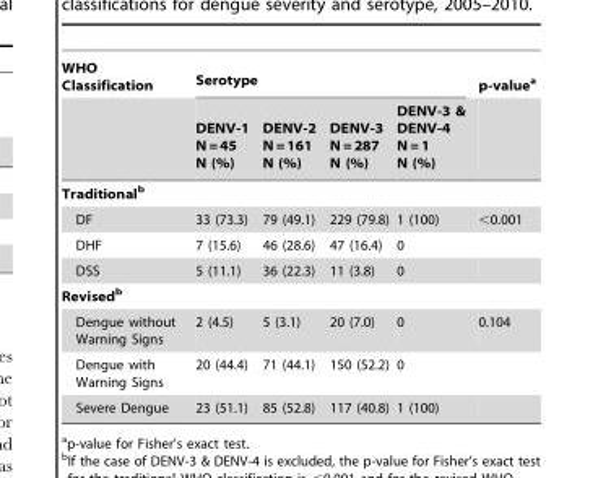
<table><thead><tr><td rowspan="2">WHO Classification</td><td colspan="4">Serotype</td><td rowspan="2">p-value<sup>a</sup></td></tr><tr><td>DENV-1 N = 45 N (%)</td><td>DENV-2 N = 161 N (%)</td><td>DENV-3 N = 287 N (%)</td><td>DENV-3 &amp; DENV-4 N = 1 N (%)</td></tr></thead><tbody><tr><td colspan="6">Traditionalb</td></tr><tr><td>DF</td><td>33 (73.3)</td><td>79 (49.1)</td><td>229 (79.8)</td><td>1 (100)</td><td>&lt;0.001</td></tr><tr><td>DHF</td><td>7 (15.6)</td><td>46 (28.6)</td><td>47 (16.4)</td><td>0</td><td></td></tr><tr><td>DSS</td><td>5 (11.1)</td><td>36 (22.3)</td><td>11 (3.8)</td><td>0</td><td></td></tr><tr><td colspan="6">Revisedb</td></tr><tr><td>Dengue without Warning Signs</td><td>2 (4.5)</td><td>5 (3.1)</td><td>20 (7.0)</td><td>0</td><td>0.104</td></tr><tr><td>Dengue with Warning Signs</td><td>20 (44.4)</td><td>71 (44.1)</td><td>150 (52.2)</td><td>0</td><td></td></tr><tr><td>Severe Dengue</td><td>23 (51.1)</td><td>85 (52.8)</td><td>117 (40.8)</td><td>1 (100)</td><td></td></tr></tbody></table>